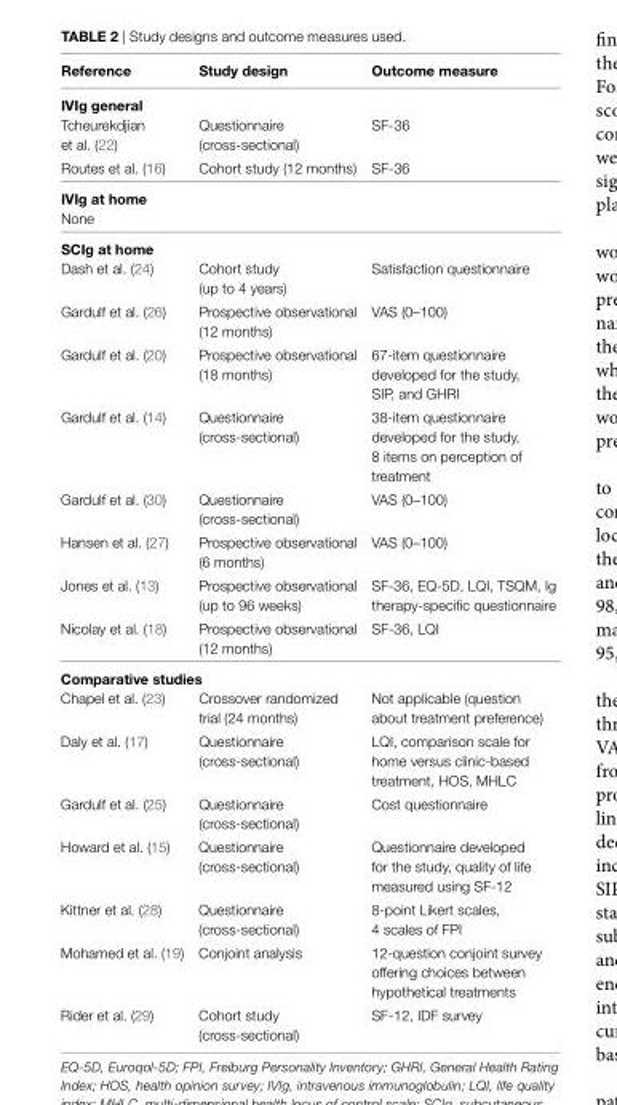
<table><thead><tr><td>Reference</td><td>Study design</td><td>Outcome measure</td></tr></thead><tbody><tr><td colspan="3">ivig general</td></tr><tr><td>Tcheurekdjian et al. (22)</td><td>Questionnaire (cross-sectional)</td><td>SF-36</td></tr><tr><td>Routes et al. (16)</td><td>Cohort study (12 months)</td><td>SF-36</td></tr><tr><td colspan="3">ivig at home</td></tr><tr><td colspan="3">None</td></tr><tr><td colspan="3">Scig at home</td></tr><tr><td>Dash et al. (24)</td><td>Cohort study (up to 4 years)</td><td>Satisfaction questionnaire</td></tr><tr><td>Gardulf et al. (26)</td><td>Prospective observational (12 months)</td><td>VAS (0–100)</td></tr><tr><td>Gardulf et al. (20)</td><td>Prospective observational (18 months)</td><td>67-item questionnaire developed for the study, SIP, and GHRI</td></tr><tr><td>Gardulf et al. (14)</td><td>Questionnaire (cross-sectional)</td><td>38-item questionnaire developed for the study, 8 items on perception of treatment</td></tr><tr><td>Gardulf et al. (30)</td><td>Questionnaire (cross-sectional)</td><td>VAS (0–100)</td></tr><tr><td>Hansen et al. (27)</td><td>Prospective observational (6 months)</td><td>VAS (0–100)</td></tr><tr><td>Jones et al. (13)</td><td>Prospective observational (up to 96 weeks)</td><td>SF-36, EQ-5D, LQI, TSQM, Ig therapy-specific questionnaire</td></tr><tr><td>Nicolay et al. (18)</td><td>Prospective observational (12 months)</td><td>SF-36, LQI</td></tr><tr><td colspan="3">comparative studies</td></tr><tr><td>Chapel et al. (23)</td><td>Crossover randomized trial (24 months)</td><td>Not applicable (question about treatment preference)</td></tr><tr><td>Daly et al. (17)</td><td>Questionnaire (cross-sectional)</td><td>LQI, comparison scale for home versus clinic-based treatment, HOS, MHLC</td></tr><tr><td>Gardulf et al. (25)</td><td>Questionnaire (cross-sectional)</td><td>Cost questionnaire</td></tr><tr><td>Howard et al. (15)</td><td>Questionnaire (cross-sectional)</td><td>Questionnaire developed for the study, quality of life measured using SF-12</td></tr><tr><td>Kittner et al. (28)</td><td>Questionnaire (cross-sectional)</td><td>8-point Likert scales, 4 scales of FPI</td></tr><tr><td>Mohamed et al. (19)</td><td>Conjoint analysis</td><td>12-question conjoint survey offering choices between hypothetical treatments</td></tr><tr><td>Rider et al. (29)</td><td>Cohort study (cross-sectional)</td><td>SF-12, IDF survey</td></tr></tbody></table>